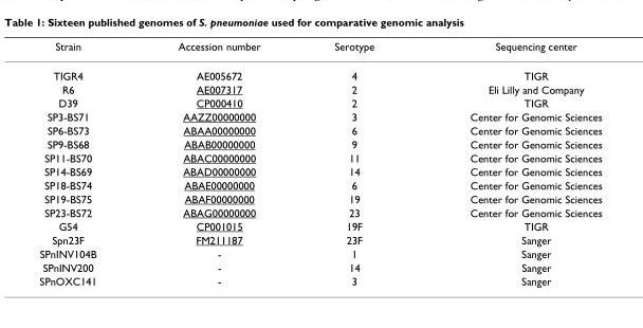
<table><thead><tr><td>Strain</td><td>Accession number</td><td>Serotype</td><td>Sequencing center</td></tr></thead><tbody><tr><td>TIGR4</td><td>AE005672</td><td>4</td><td>TIGR</td></tr><tr><td>R6</td><td>AE007317</td><td>2</td><td>Eli Lilly and Company</td></tr><tr><td>D39</td><td>CP000410</td><td>2</td><td>TIGR</td></tr><tr><td>SP3-BS71</td><td>AAZZ00000000</td><td>3</td><td>Center for Genomic Sciences</td></tr><tr><td>SP6-BS73</td><td>ABAA00000000</td><td>6</td><td>Center for Genomic Sciences</td></tr><tr><td>SP9-BS68</td><td>ABAB00000000</td><td>9</td><td>Center for Genomic Sciences</td></tr><tr><td>SP11-BS70</td><td>ABAC00000000</td><td>11</td><td>Center for Genomic Sciences</td></tr><tr><td>SP14-BS69</td><td>ABAD00000000</td><td>14</td><td>Center for Genomic Sciences</td></tr><tr><td>SP18-BS74</td><td>ABAE00000000</td><td>6</td><td>Center for Genomic Sciences</td></tr><tr><td>SP19-BS75</td><td>ABAF00000000</td><td>19</td><td>Center for Genomic Sciences</td></tr><tr><td>SP23-BS72</td><td>ABAG00000000</td><td>23</td><td>Center for Genomic Sciences</td></tr><tr><td>G54</td><td>CP001015</td><td>19F</td><td>TIGR</td></tr><tr><td>Spn23F</td><td>FM211187</td><td>23F</td><td>Sanger</td></tr><tr><td>SPnINV104B</td><td>-</td><td>1</td><td>Sanger</td></tr><tr><td>SPnINV200</td><td>-</td><td>14</td><td>Sanger</td></tr><tr><td>SPnOXC141</td><td>-</td><td>3</td><td>Sanger</td></tr></tbody></table>